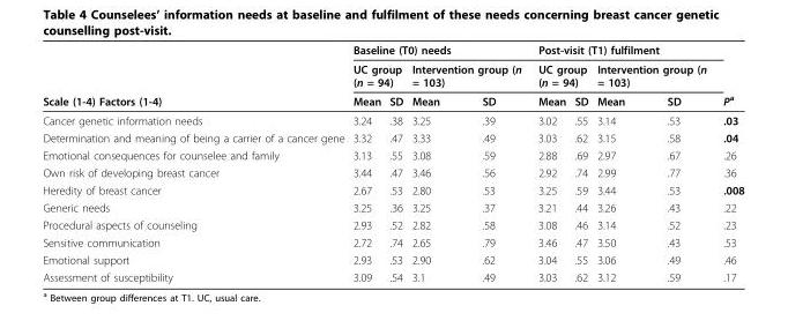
<table><thead><tr><td rowspan="3">Scale (1-4) Factors (1-4)</td><td colspan="4">Baseline (T0) needs</td><td colspan="4">Post-visit (T1) fulfilment</td><td rowspan="3">Pa</td></tr><tr><td colspan="2">UC group (n = 94)</td><td colspan="2">Intervention group (n = 103)</td><td colspan="2">UC group (n = 94)</td><td colspan="2">Intervention group (n = 103)</td></tr><tr><td>Mean</td><td>SD</td><td>Mean</td><td>SD</td><td>Mean</td><td>SD</td><td>Mean</td><td>SD</td></tr></thead><tbody><tr><td>Cancer genetic information needs</td><td>3.24</td><td>.38</td><td>3.25</td><td>.39</td><td>3.02</td><td>.55</td><td>3.14</td><td>.53</td><td>.03</td></tr><tr><td>Determination and meaning of being a carrier of a cancer gene</td><td>3.32</td><td>.47</td><td>3.33</td><td>.49</td><td>3.03</td><td>.62</td><td>3.15</td><td>.58</td><td>.04</td></tr><tr><td>Emotional consequences for counselee and family</td><td>3.13</td><td>.55</td><td>3.08</td><td>.59</td><td>2.88</td><td>.69</td><td>2.97</td><td>.67</td><td>.26</td></tr><tr><td>Own risk of developing breast cancer</td><td>3.44</td><td>.47</td><td>3.46</td><td>.56</td><td>2.92</td><td>.74</td><td>2.99</td><td>.77</td><td>.36</td></tr><tr><td>Heredity of breast cancer</td><td>2.67</td><td>.53</td><td>2.80</td><td>.53</td><td>3.25</td><td>.59</td><td>3.44</td><td>.53</td><td>.008</td></tr><tr><td>Generic needs</td><td>3.25</td><td>.36</td><td>3.25</td><td>.37</td><td>3.21</td><td>.44</td><td>3.26</td><td>.43</td><td>.22</td></tr><tr><td>Procedural aspects of counseling</td><td>2.93</td><td>.52</td><td>2.82</td><td>.58</td><td>3.08</td><td>.46</td><td>3.14</td><td>.52</td><td>.23</td></tr><tr><td>Sensitive communication</td><td>2.72</td><td>.74</td><td>2.65</td><td>.79</td><td>3.46</td><td>.47</td><td>3.50</td><td>.43</td><td>.53</td></tr><tr><td>Emotional support</td><td>2.93</td><td>.53</td><td>2.90</td><td>.62</td><td>3.04</td><td>.55</td><td>3.06</td><td>.49</td><td>.46</td></tr><tr><td>Assessment of susceptibility</td><td>3.09</td><td>.54</td><td>3.1</td><td>.49</td><td>3.03</td><td>.62</td><td>3.12</td><td>.59</td><td>.17</td></tr></tbody></table>